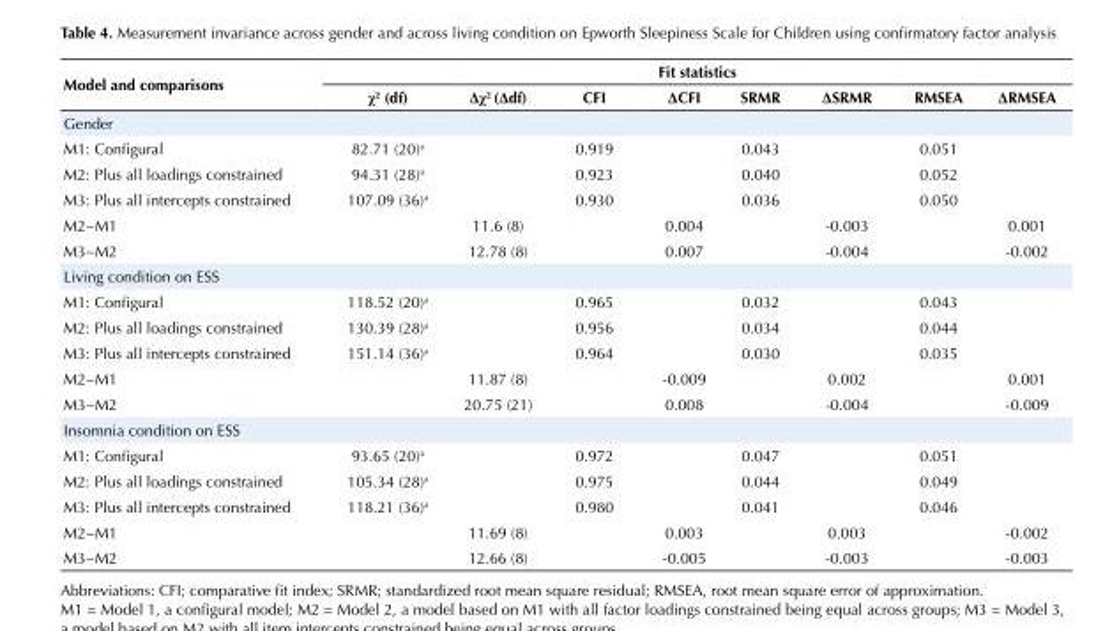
<table><tbody><tr><td rowspan="2">Model and comparisons</td><td colspan="8">Fit statistics</td></tr><tr><td>χ<sup>2</sup> (df)</td><td>∆χ<sup>2</sup> (∆df)</td><td>CFI</td><td>∆CFI</td><td>SRMR</td><td>∆SRMR</td><td>RMSEA</td><td>∆RMSEA</td></tr><tr><td colspan="9">Gender</td></tr><tr><td>M1: Configural</td><td>82.71 (20)<sup>a</sup></td><td></td><td>0.919</td><td></td><td>0.043</td><td></td><td>0.051</td><td></td></tr><tr><td>M2: Plus all loadings constrained</td><td>94.31 (28)<sup>a</sup></td><td></td><td>0.923</td><td></td><td>0.040</td><td></td><td>0.052</td><td></td></tr><tr><td>M3: Plus all intercepts constrained</td><td>107.09 (36)<sup>a</sup></td><td></td><td>0.930</td><td></td><td>0.036</td><td></td><td>0.050</td><td></td></tr><tr><td>M2−M1</td><td></td><td>11.6 (8)</td><td></td><td>0.004</td><td></td><td>-0.003</td><td></td><td>0.001</td></tr><tr><td>M3−M2</td><td></td><td>12.78 (8)</td><td></td><td>0.007</td><td></td><td>-0.004</td><td></td><td>-0.002</td></tr><tr><td colspan="9">Living condition on ESS</td></tr><tr><td>M1: Configural</td><td>118.52 (20)<sup>a</sup></td><td></td><td>0.965</td><td></td><td>0.032</td><td></td><td>0.043</td><td></td></tr><tr><td>M2: Plus all loadings constrained</td><td>130.39 (28)<sup>a</sup></td><td></td><td>0.956</td><td></td><td>0.034</td><td></td><td>0.044</td><td></td></tr><tr><td>M3: Plus all intercepts constrained</td><td>151.14 (36)<sup>a</sup></td><td></td><td>0.964</td><td></td><td>0.030</td><td></td><td>0.035</td><td></td></tr><tr><td>M2−M1</td><td></td><td>11.87 (8)</td><td></td><td>-0.009</td><td></td><td>0.002</td><td></td><td>0.001</td></tr><tr><td>M3−M2</td><td></td><td>20.75 (21)</td><td></td><td>0.008</td><td></td><td>-0.004</td><td></td><td>-0.009</td></tr><tr><td colspan="9">Insomnia condition on ESS</td></tr><tr><td>M1: Configural</td><td>93.65 (20)<sup>a</sup></td><td></td><td>0.972</td><td></td><td>0.047</td><td></td><td>0.051</td><td></td></tr><tr><td>M2: Plus all loadings constrained</td><td>105.34 (28)<sup>a</sup></td><td></td><td>0.975</td><td></td><td>0.044</td><td></td><td>0.049</td><td></td></tr><tr><td>M3: Plus all intercepts constrained</td><td>118.21 (36)<sup>a</sup></td><td></td><td>0.980</td><td></td><td>0.041</td><td></td><td>0.046</td><td></td></tr><tr><td>M2−M1</td><td></td><td>11.69 (8)</td><td></td><td>0.003</td><td></td><td>0.003</td><td></td><td>-0.002</td></tr><tr><td>M3−M2</td><td></td><td>12.66 (8)</td><td></td><td>-0.005</td><td></td><td>-0.003</td><td></td><td>-0.003</td></tr></tbody></table>